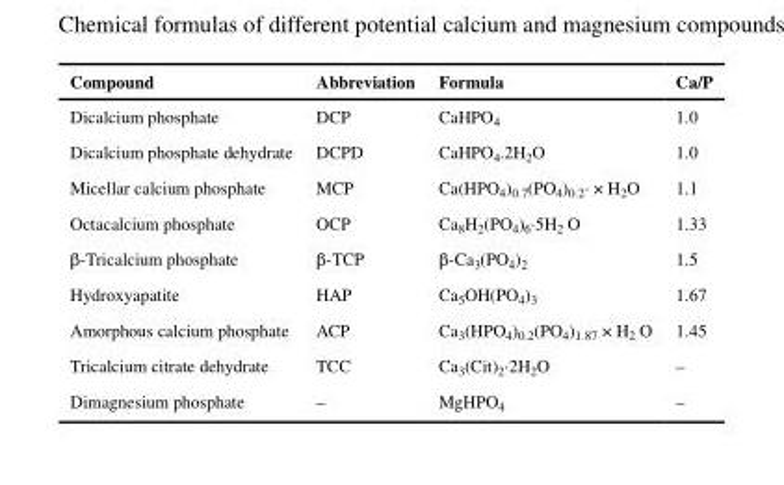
<table><thead><tr><td>Compound</td><td>Abbreviation</td><td>Formula</td><td>Ca/P</td></tr></thead><tbody><tr><td>Dicalcium phosphate</td><td>DCP</td><td>CaHPO<sub>4</sub></td><td>1.0</td></tr><tr><td>Dicalcium phosphate dehydrate</td><td>DCPD</td><td>CaHPO<sub>4</sub>.2H<sub>2</sub>O</td><td>1.0</td></tr><tr><td>Micellar calcium phosphate</td><td>MCP</td><td>Ca(HPO<sub>4</sub>)<sub>0.7</sub>(PO<sub>4</sub>)<sub>0.2</sub>· × H<sub>2</sub>O</td><td>1.1</td></tr><tr><td>Octacalcium phosphate</td><td>OCP</td><td>Ca<sub>8</sub>H<sub>2</sub>(PO<sub>4</sub>)<sub>6</sub>·5H<sub>2</sub> O</td><td>1.33</td></tr><tr><td>β-Tricalcium phosphate</td><td>β-TCP</td><td>β-Ca<sub>3</sub>(PO<sub>4</sub>)<sub>2</sub></td><td>1.5</td></tr><tr><td>Hydroxyapatite</td><td>HAP</td><td>Ca<sub>5</sub>OH(PO<sub>4</sub>)<sub>3</sub></td><td>1.67</td></tr><tr><td>Amorphous calcium phosphate</td><td>ACP</td><td>Ca<sub>3</sub>(HPO<sub>4</sub>)<sub>0.2</sub>(PO<sub>4</sub>)<sub>1.87</sub> × H<sub>2</sub> O</td><td>1.45</td></tr><tr><td>Tricalcium citrate dehydrate</td><td>TCC</td><td>Ca<sub>3</sub>(Cit)<sub>2</sub>·2H<sub>2</sub>O</td><td>–</td></tr><tr><td>Dimagnesium phosphate</td><td>–</td><td>MgHPO<sub>4</sub></td><td>–</td></tr></tbody></table>